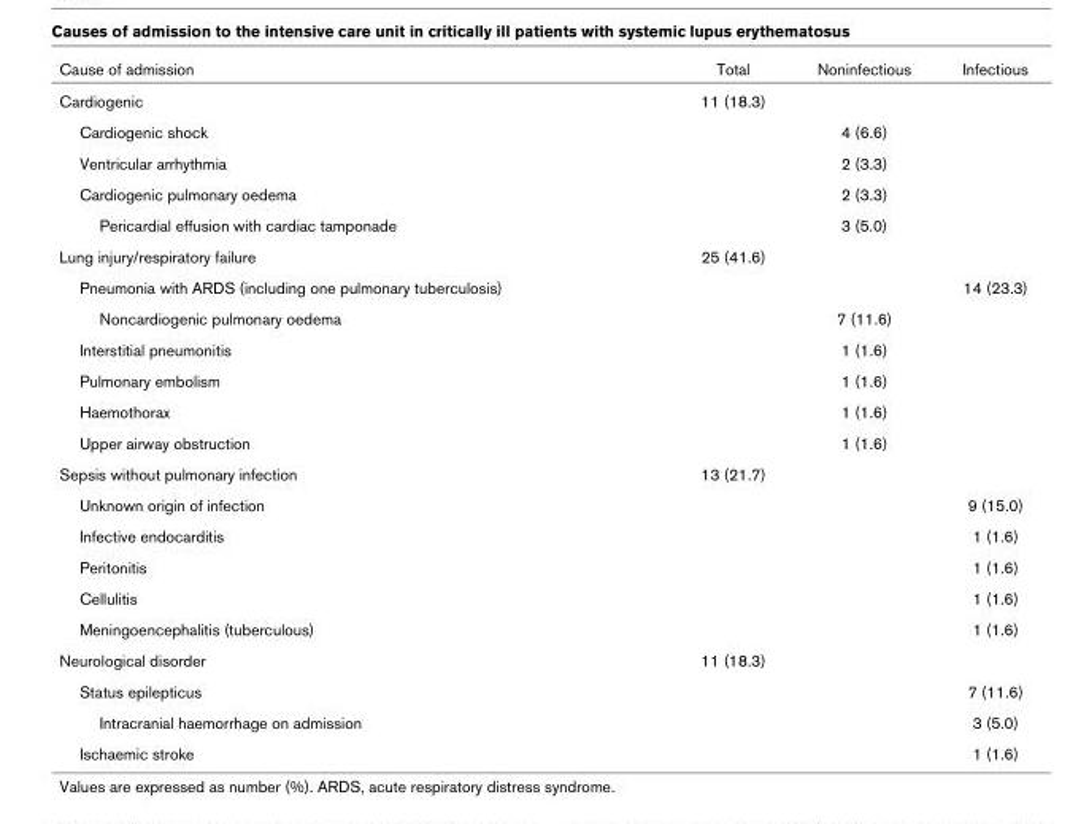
<table><thead><tr><td>Cause of admission</td><td>Total</td><td>Noninfectious</td><td>Infectious</td></tr></thead><tbody><tr><td>Cardiogenic</td><td>11 (18.3)</td><td></td><td></td></tr><tr><td>Cardiogenic shock</td><td></td><td>4 (6.6)</td><td></td></tr><tr><td>Ventricular arrhythmia</td><td></td><td>2 (3.3)</td><td></td></tr><tr><td>Cardiogenic pulmonary oedema</td><td></td><td>2 (3.3)</td><td></td></tr><tr><td>Pericardial effusion with cardiac tamponade</td><td></td><td>3 (5.0)</td><td></td></tr><tr><td>Lung injury/respiratory failure</td><td>25 (41.6)</td><td></td><td></td></tr><tr><td>Pneumonia with ARDS (including one pulmonary tuberculosis)</td><td></td><td></td><td>14 (23.3)</td></tr><tr><td>Noncardiogenic pulmonary oedema</td><td></td><td>7 (11.6)</td><td></td></tr><tr><td>Interstitial pneumonitis</td><td></td><td>1 (1.6)</td><td></td></tr><tr><td>Pulmonary embolism</td><td></td><td>1 (1.6)</td><td></td></tr><tr><td>Haemothorax</td><td></td><td>1 (1.6)</td><td></td></tr><tr><td>Upper airway obstruction</td><td></td><td>1 (1.6)</td><td></td></tr><tr><td>Sepsis without pulmonary infection</td><td>13 (21.7)</td><td></td><td></td></tr><tr><td>Unknown origin of infection</td><td></td><td></td><td>9 (15.0)</td></tr><tr><td>Infective endocarditis</td><td></td><td></td><td>1 (1.6)</td></tr><tr><td>Peritonitis</td><td></td><td></td><td>1 (1.6)</td></tr><tr><td>Cellulitis</td><td></td><td></td><td>1 (1.6)</td></tr><tr><td>Meningoencephalitis (tuberculous)</td><td></td><td></td><td>1 (1.6)</td></tr><tr><td>Neurological disorder</td><td>11 (18.3)</td><td></td><td></td></tr><tr><td>Status epilepticus</td><td></td><td></td><td>7 (11.6)</td></tr><tr><td>Intracranial haemorrhage on admission</td><td></td><td></td><td>3 (5.0)</td></tr><tr><td>Ischaemic stroke</td><td></td><td></td><td>1 (1.6)</td></tr></tbody></table>